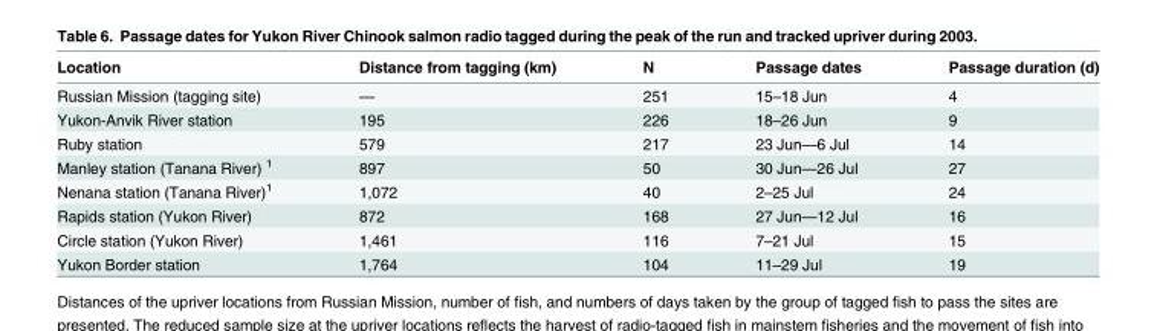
<table><thead><tr><td>Location</td><td>Distance from tagging (km)</td><td>N</td><td>Passage dates</td><td>Passage duration (d)</td></tr></thead><tbody><tr><td>Russian Mission (tagging site)</td><td>—</td><td>251</td><td>15–18 Jun</td><td>4</td></tr><tr><td>Yukon-Anvik River station</td><td>195</td><td>226</td><td>18–26 Jun</td><td>9</td></tr><tr><td>Ruby station</td><td>579</td><td>217</td><td>23 Jun—6 Jul</td><td>14</td></tr><tr><td>Manley station (Tanana River) <sup>1</sup></td><td>897</td><td>50</td><td>30 Jun—26 Jul</td><td>27</td></tr><tr><td>Nenana station (Tanana River)<sup>1</sup></td><td>1,072</td><td>40</td><td>2–25 Jul</td><td>24</td></tr><tr><td>Rapids station (Yukon River)</td><td>872</td><td>168</td><td>27 Jun—12 Jul</td><td>16</td></tr><tr><td>Circle station (Yukon River)</td><td>1,461</td><td>116</td><td>7–21 Jul</td><td>15</td></tr><tr><td>Yukon Border station</td><td>1,764</td><td>104</td><td>11–29 Jul</td><td>19</td></tr></tbody></table>